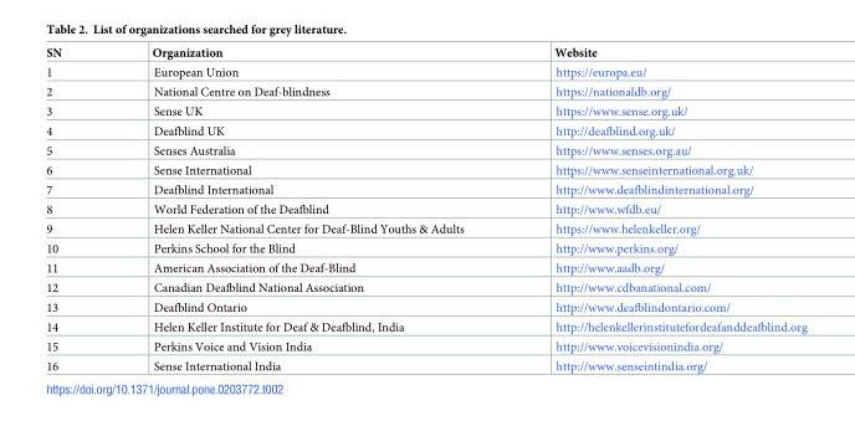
<table><thead><tr><td>SN</td><td>Organization</td><td>Website</td></tr></thead><tbody><tr><td>1</td><td>European Union</td><td>https://europa.eu/</td></tr><tr><td>2</td><td>National Centre on Deaf-blindness</td><td>https://nationaldb.org/</td></tr><tr><td>3</td><td>Sense UK</td><td>https://www.sense.org.uk/</td></tr><tr><td>4</td><td>Deafblind UK</td><td>http://deafblind.org.uk/</td></tr><tr><td>5</td><td>Senses Australia</td><td>https://www.senses.org.au/</td></tr><tr><td>6</td><td>Sense International</td><td>https://www.senseinternational.org.uk/</td></tr><tr><td>7</td><td>Deafblind International</td><td>http://www.deafblindinternational.org/</td></tr><tr><td>8</td><td>World Federation of the Deafblind</td><td>http://www.wfdb.eu/</td></tr><tr><td>9</td><td>Helen Keller National Center for Deaf-Blind Youths &amp; Adults</td><td>https://www.helenkeller.org/</td></tr><tr><td>10</td><td>Perkins School for the Blind</td><td>http://www.perkins.org/</td></tr><tr><td>11</td><td>American Association of the Deaf-Blind</td><td>http://www.aadb.org/</td></tr><tr><td>12</td><td>Canadian Deafblind National Association</td><td>http://www.cdbanational.com/</td></tr><tr><td>13</td><td>Deafblind Ontario</td><td>http://www.deafblindontario.com/</td></tr><tr><td>14</td><td>Helen Keller Institute for Deaf &amp; Deafblind, India</td><td>http://helenkellerinstitutefordeafanddeafblind.org</td></tr><tr><td>15</td><td>Perkins Voice and Vision India</td><td>http://www.voicevisionindia.org/</td></tr><tr><td>16</td><td>Sense International India</td><td>http://www.senseintindia.org/</td></tr></tbody></table>